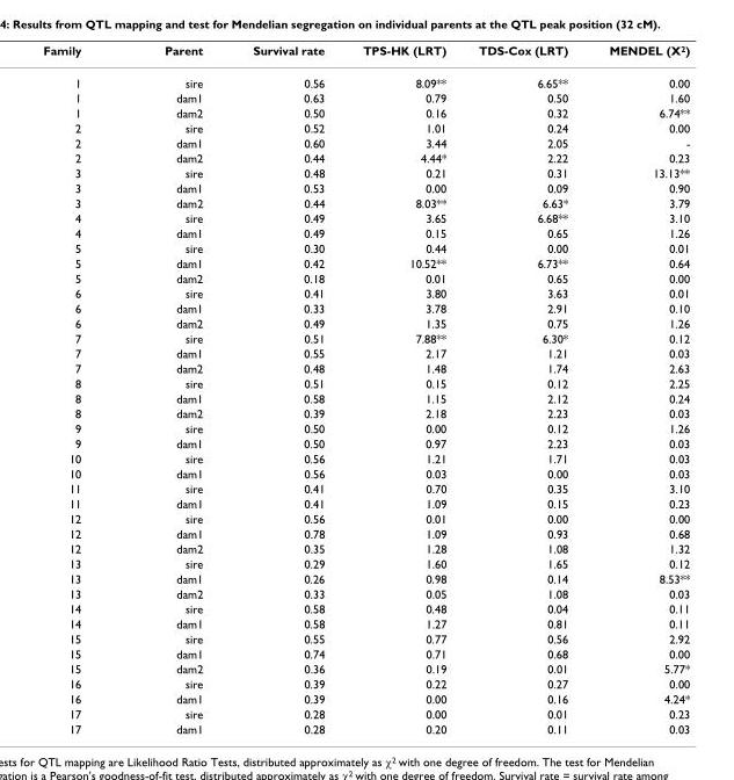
<table><thead><tr><td>Family</td><td>Parent</td><td>Survival rate</td><td>TPS-HK (LRT)</td><td>TDS-Cox (LRT)</td><td>MENDEL (X<sup>2</sup>)</td></tr></thead><tbody><tr><td>1</td><td>sire</td><td>0.56</td><td>8.09**</td><td>6.65**</td><td>0.00</td></tr><tr><td>1</td><td>dam1</td><td>0.63</td><td>0.79</td><td>0.50</td><td>1.60</td></tr><tr><td>1</td><td>dam2</td><td>0.50</td><td>0.16</td><td>0.32</td><td>6.74**</td></tr><tr><td>2</td><td>sire</td><td>0.52</td><td>1.01</td><td>0.24</td><td>0.00</td></tr><tr><td>2</td><td>dam1</td><td>0.60</td><td>3.44</td><td>2.05</td><td>-</td></tr><tr><td>2</td><td>dam2</td><td>0.44</td><td>4.44*</td><td>2.22</td><td>0.23</td></tr><tr><td>3</td><td>sire</td><td>0.48</td><td>0.21</td><td>0.31</td><td>13.13**</td></tr><tr><td>3</td><td>dam1</td><td>0.53</td><td>0.00</td><td>0.09</td><td>0.90</td></tr><tr><td>3</td><td>dam2</td><td>0.44</td><td>8.03**</td><td>6.63*</td><td>3.79</td></tr><tr><td>4</td><td>sire</td><td>0.49</td><td>3.65</td><td>6.68**</td><td>3.10</td></tr><tr><td>4</td><td>dam1</td><td>0.49</td><td>0.15</td><td>0.65</td><td>1.26</td></tr><tr><td>5</td><td>sire</td><td>0.30</td><td>0.44</td><td>0.00</td><td>0.01</td></tr><tr><td>5</td><td>dam1</td><td>0.42</td><td>10.52**</td><td>6.73**</td><td>0.64</td></tr><tr><td>5</td><td>dam2</td><td>0.18</td><td>0.01</td><td>0.65</td><td>0.00</td></tr><tr><td>6</td><td>sire</td><td>0.41</td><td>3.80</td><td>3.63</td><td>0.01</td></tr><tr><td>6</td><td>dam1</td><td>0.33</td><td>3.78</td><td>2.91</td><td>0.10</td></tr><tr><td>6</td><td>dam2</td><td>0.49</td><td>1.35</td><td>0.75</td><td>1.26</td></tr><tr><td>7</td><td>sire</td><td>0.51</td><td>7.88**</td><td>6.30*</td><td>0.12</td></tr><tr><td>7</td><td>dam1</td><td>0.55</td><td>2.17</td><td>1.21</td><td>0.03</td></tr><tr><td>7</td><td>dam2</td><td>0.48</td><td>1.48</td><td>1.74</td><td>2.63</td></tr><tr><td>8</td><td>sire</td><td>0.51</td><td>0.15</td><td>0.12</td><td>2.25</td></tr><tr><td>8</td><td>dam1</td><td>0.58</td><td>1.15</td><td>2.12</td><td>0.24</td></tr><tr><td>8</td><td>dam2</td><td>0.39</td><td>2.18</td><td>2.23</td><td>0.03</td></tr><tr><td>9</td><td>sire</td><td>0.50</td><td>0.00</td><td>0.12</td><td>1.26</td></tr><tr><td>9</td><td>dam1</td><td>0.50</td><td>0.97</td><td>2.23</td><td>0.03</td></tr><tr><td>10</td><td>sire</td><td>0.56</td><td>1.21</td><td>1.71</td><td>0.03</td></tr><tr><td>10</td><td>dam1</td><td>0.56</td><td>0.03</td><td>0.00</td><td>0.03</td></tr><tr><td>11</td><td>sire</td><td>0.41</td><td>0.70</td><td>0.35</td><td>3.10</td></tr><tr><td>11</td><td>dam1</td><td>0.41</td><td>1.09</td><td>0.15</td><td>0.23</td></tr><tr><td>12</td><td>sire</td><td>0.56</td><td>0.01</td><td>0.00</td><td>0.00</td></tr><tr><td>12</td><td>dam1</td><td>0.78</td><td>1.09</td><td>0.93</td><td>0.68</td></tr><tr><td>12</td><td>dam2</td><td>0.35</td><td>1.28</td><td>1.08</td><td>1.32</td></tr><tr><td>13</td><td>sire</td><td>0.29</td><td>1.60</td><td>1.65</td><td>0.12</td></tr><tr><td>13</td><td>dam1</td><td>0.26</td><td>0.98</td><td>0.14</td><td>8.53**</td></tr><tr><td>13</td><td>dam2</td><td>0.33</td><td>0.05</td><td>1.08</td><td>0.03</td></tr><tr><td>14</td><td>sire</td><td>0.58</td><td>0.48</td><td>0.04</td><td>0.11</td></tr><tr><td>14</td><td>dam1</td><td>0.58</td><td>1.27</td><td>0.81</td><td>0.11</td></tr><tr><td>15</td><td>sire</td><td>0.55</td><td>0.77</td><td>0.56</td><td>2.92</td></tr><tr><td>15</td><td>dam1</td><td>0.74</td><td>0.71</td><td>0.68</td><td>0.00</td></tr><tr><td>15</td><td>dam2</td><td>0.36</td><td>0.19</td><td>0.01</td><td>5.77*</td></tr><tr><td>16</td><td>sire</td><td>0.39</td><td>0.22</td><td>0.27</td><td>0.00</td></tr><tr><td>16</td><td>dam1</td><td>0.39</td><td>0.00</td><td>0.16</td><td>4.24*</td></tr><tr><td>17</td><td>sire</td><td>0.28</td><td>0.00</td><td>0.01</td><td>0.23</td></tr><tr><td>17</td><td>dam1</td><td>0.28</td><td>0.20</td><td>0.11</td><td>0.03</td></tr></tbody></table>